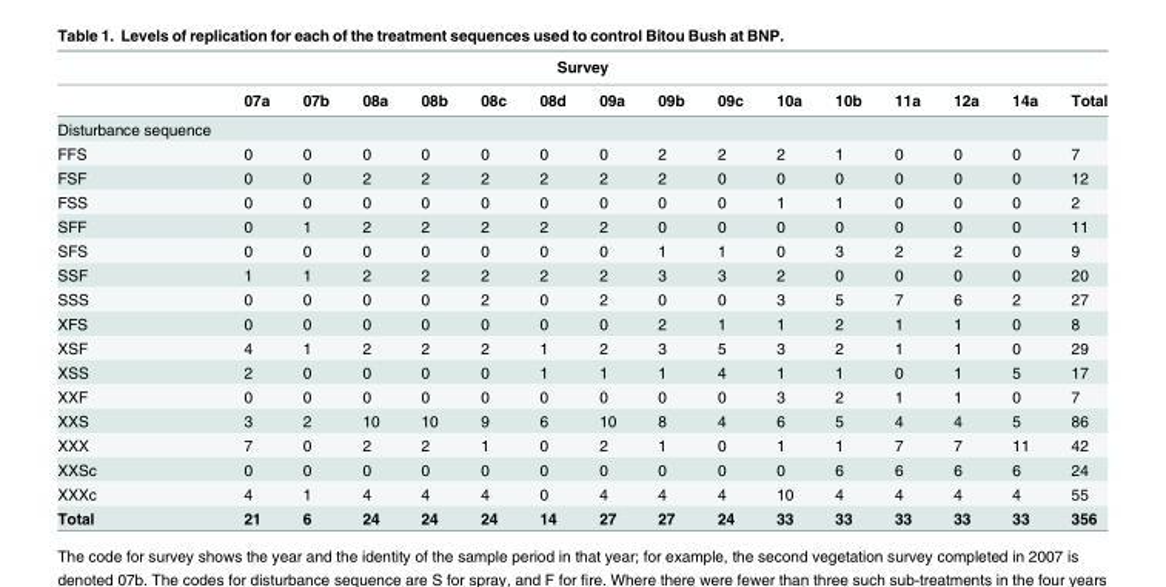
<table><thead><tr><td colspan="16">Survey</td></tr><tr><td></td><td>07a</td><td>07b</td><td>08a</td><td>08b</td><td>08c</td><td>08d</td><td>09a</td><td>09b</td><td>09c</td><td>10a</td><td>10b</td><td>11a</td><td>12a</td><td>14a</td><td>Total</td></tr></thead><tbody><tr><td colspan="16">Disturbance sequence</td></tr><tr><td>FFS</td><td>0</td><td>0</td><td>0</td><td>0</td><td>0</td><td>0</td><td>0</td><td>2</td><td>2</td><td>2</td><td>1</td><td>0</td><td>0</td><td>0</td><td>7</td></tr><tr><td>FSF</td><td>0</td><td>0</td><td>2</td><td>2</td><td>2</td><td>2</td><td>2</td><td>2</td><td>0</td><td>0</td><td>0</td><td>0</td><td>0</td><td>0</td><td>12</td></tr><tr><td>FSS</td><td>0</td><td>0</td><td>0</td><td>0</td><td>0</td><td>0</td><td>0</td><td>0</td><td>0</td><td>1</td><td>1</td><td>0</td><td>0</td><td>0</td><td>2</td></tr><tr><td>SFF</td><td>0</td><td>1</td><td>2</td><td>2</td><td>2</td><td>2</td><td>2</td><td>0</td><td>0</td><td>0</td><td>0</td><td>0</td><td>0</td><td>0</td><td>11</td></tr><tr><td>SFS</td><td>0</td><td>0</td><td>0</td><td>0</td><td>0</td><td>0</td><td>0</td><td>1</td><td>1</td><td>0</td><td>3</td><td>2</td><td>2</td><td>0</td><td>9</td></tr><tr><td>SSF</td><td>1</td><td>1</td><td>2</td><td>2</td><td>2</td><td>2</td><td>2</td><td>3</td><td>3</td><td>2</td><td>0</td><td>0</td><td>0</td><td>0</td><td>20</td></tr><tr><td>SSS</td><td>0</td><td>0</td><td>0</td><td>0</td><td>2</td><td>0</td><td>2</td><td>0</td><td>0</td><td>3</td><td>5</td><td>7</td><td>6</td><td>2</td><td>27</td></tr><tr><td>XFS</td><td>0</td><td>0</td><td>0</td><td>0</td><td>0</td><td>0</td><td>0</td><td>2</td><td>1</td><td>1</td><td>2</td><td>1</td><td>1</td><td>0</td><td>8</td></tr><tr><td>XSF</td><td>4</td><td>1</td><td>2</td><td>2</td><td>2</td><td>1</td><td>2</td><td>3</td><td>5</td><td>3</td><td>2</td><td>1</td><td>1</td><td>0</td><td>29</td></tr><tr><td>XSS</td><td>2</td><td>0</td><td>0</td><td>0</td><td>0</td><td>1</td><td>1</td><td>1</td><td>4</td><td>1</td><td>1</td><td>0</td><td>1</td><td>5</td><td>17</td></tr><tr><td>XXF</td><td>0</td><td>0</td><td>0</td><td>0</td><td>0</td><td>0</td><td>0</td><td>0</td><td>0</td><td>3</td><td>2</td><td>1</td><td>1</td><td>0</td><td>7</td></tr><tr><td>XXS</td><td>3</td><td>2</td><td>10</td><td>10</td><td>9</td><td>6</td><td>10</td><td>8</td><td>4</td><td>6</td><td>5</td><td>4</td><td>4</td><td>5</td><td>86</td></tr><tr><td>XXX</td><td>7</td><td>0</td><td>2</td><td>2</td><td>1</td><td>0</td><td>2</td><td>1</td><td>0</td><td>1</td><td>1</td><td>7</td><td>7</td><td>11</td><td>42</td></tr><tr><td>XXSc</td><td>0</td><td>0</td><td>0</td><td>0</td><td>0</td><td>0</td><td>0</td><td>0</td><td>0</td><td>0</td><td>6</td><td>6</td><td>6</td><td>6</td><td>24</td></tr><tr><td>XXXc</td><td>4</td><td>1</td><td>4</td><td>4</td><td>4</td><td>0</td><td>4</td><td>4</td><td>4</td><td>10</td><td>4</td><td>4</td><td>4</td><td>4</td><td>55</td></tr><tr><td>Total</td><td>21</td><td>6</td><td>24</td><td>24</td><td>24</td><td>14</td><td>27</td><td>27</td><td>24</td><td>33</td><td>33</td><td>33</td><td>33</td><td>33</td><td>356</td></tr></tbody></table>